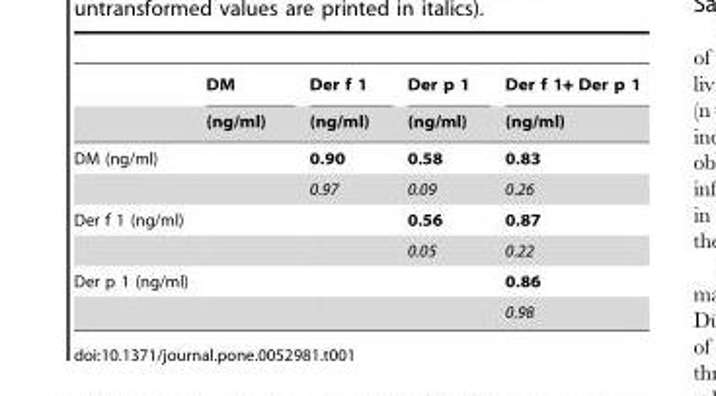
<table><thead><tr><td rowspan="2"></td><td rowspan="2">DM (ng/ml)</td><td rowspan="2">Der f 1 (ng/ml)</td><td rowspan="2">Der p 1 (ng/ml)</td><td rowspan="2">Der f 1+ Der p 1 (ng/ml)</td></tr><tr></tr></thead><tbody><tr><td rowspan="2">DM (ng/ml)</td><td></td><td>0.90</td><td>0.58</td><td>0.83</td></tr><tr><td></td><td>0.97</td><td>0.09</td><td>0.26</td></tr><tr><td rowspan="2">Der f 1 (ng/ml)</td><td></td><td></td><td>0.56</td><td>0.87</td></tr><tr><td></td><td></td><td>0.05</td><td>0.22</td></tr><tr><td rowspan="2">Der p 1 (ng/ml)</td><td></td><td></td><td></td><td>0.86</td></tr><tr><td></td><td></td><td></td><td>0.98</td></tr></tbody></table>